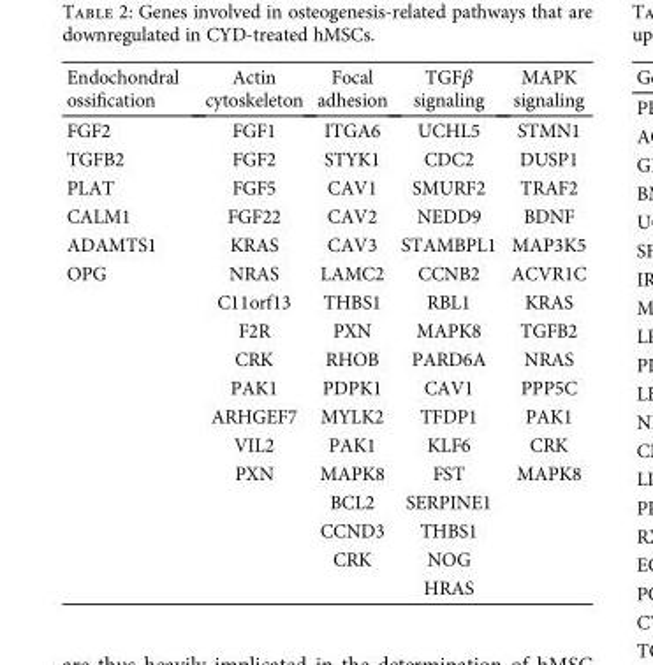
<table><thead><tr><td>Endochondral ossification</td><td>Actin cytoskeleton</td><td>Focal adhesion</td><td>TGFβ signaling</td><td>MAPK signaling</td></tr></thead><tbody><tr><td>FGF2</td><td>FGF1</td><td>ITGA6</td><td>UCHL5</td><td>STMN1</td></tr><tr><td>TGFB2</td><td>FGF2</td><td>STYK1</td><td>CDC2</td><td>DUSP1</td></tr><tr><td>PLAT</td><td>FGF5</td><td>CAV1</td><td>SMURF2</td><td>TRAF2</td></tr><tr><td>CALM1</td><td>FGF22</td><td>CAV2</td><td>NEDD9</td><td>BDNF</td></tr><tr><td>ADAMTS1</td><td>KRAS</td><td>CAV3</td><td>STAMBPL1</td><td>MAP3K5</td></tr><tr><td rowspan="12">OPG</td><td>NRAS</td><td>LAMC2</td><td>CCNB2</td><td>ACVR1C</td></tr><tr><td>C11orf13</td><td>THBS1</td><td>RBL1</td><td>KRAS</td></tr><tr><td>F2R</td><td>PXN</td><td>MAPK8</td><td>TGFB2</td></tr><tr><td>CRK</td><td>RHOB</td><td>PARD6A</td><td>NRAS</td></tr><tr><td>PAK1</td><td>PDPK1</td><td>CAV1</td><td>PPP5C</td></tr><tr><td>ARHGEF7</td><td>MYLK2</td><td>TFDP1</td><td>PAK1</td></tr><tr><td>VIL2</td><td>PAK1</td><td>KLF6</td><td>CRK</td></tr><tr><td>PXN</td><td>MAPK8</td><td>FST</td><td>MAPK8</td></tr><tr><td></td><td>BCL2</td><td>SERPINE1</td><td></td></tr><tr><td></td><td>CCND3</td><td>THBS1</td><td></td></tr><tr><td></td><td>CRK</td><td>NOG</td><td></td></tr><tr><td></td><td></td><td>HRAS</td><td></td></tr></tbody></table>